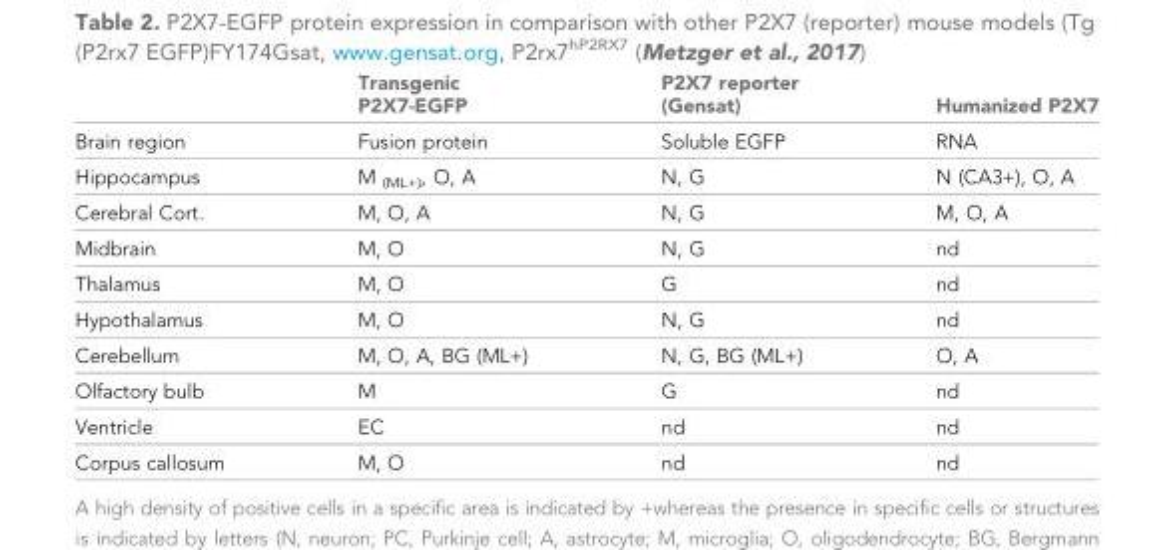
<table><thead><tr><td></td><td>Transgenic P2X7-EGFP</td><td>P2X7 reporter (Gensat)</td><td>Humanized P2X7</td></tr></thead><tbody><tr><td>Brain region</td><td>Fusion protein</td><td>Soluble EGFP</td><td>RNA</td></tr><tr><td>Hippocampus</td><td>M <sub>(ML+)</sub>, O, A</td><td>N, G</td><td>N (CA3+), O, A</td></tr><tr><td>Cerebral Cort.</td><td>M, O, A</td><td>N, G</td><td>M, O, A</td></tr><tr><td>Midbrain</td><td>M, O</td><td>N, G</td><td>nd</td></tr><tr><td>Thalamus</td><td>M, O</td><td>G</td><td>nd</td></tr><tr><td>Hypothalamus</td><td>M, O</td><td>N, G</td><td>nd</td></tr><tr><td>Cerebellum</td><td>M, O, A, BG (ML+)</td><td>N, G, BG (ML+)</td><td>O, A</td></tr><tr><td>Olfactory bulb</td><td>M</td><td>G</td><td>nd</td></tr><tr><td>Ventricle</td><td>EC</td><td>nd</td><td>nd</td></tr><tr><td>Corpus callosum</td><td>M, O</td><td>nd</td><td>nd</td></tr></tbody></table>